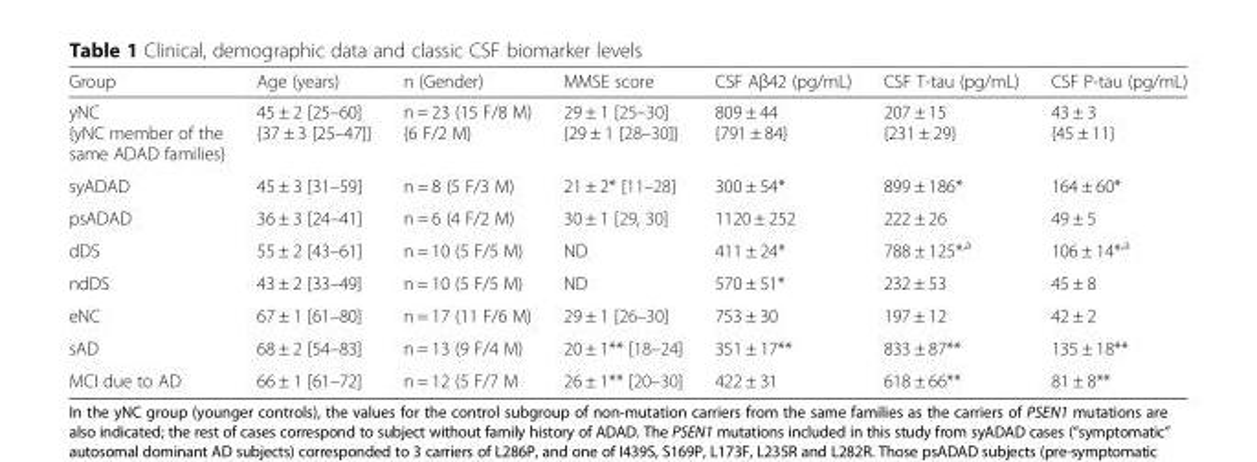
<table><thead><tr><td>Group</td><td>Age (years)</td><td>n (Gender)</td><td>MMSE score</td><td>CSF Aβ42 (pg/mL)</td><td>CSF T-tau (pg/mL)</td><td>CSF P-tau (pg/mL)</td></tr></thead><tbody><tr><td>yNC {yNC member of the same ADAD families}</td><td>45 ± 2 [25–60] {37 ± 3 [25–47]}</td><td>n = 23 (15 F/8 M) {6 F/2 M}</td><td>29 ± 1 [25–30] {29 ± 1 [28–30]}</td><td>809 ± 44 {791 ± 84}</td><td>207 ± 15 {231 ± 29}</td><td>43 ± 3 {45 ± 11}</td></tr><tr><td>syADAD</td><td>45 ± 3 [31–59]</td><td>n = 8 (5 F/3 M)</td><td>21 ± 2* [11–28]</td><td>300 ± 54*</td><td>899 ± 186*</td><td>164 ± 60*</td></tr><tr><td>psADAD</td><td>36 ± 3 [24–41]</td><td>n = 6 (4 F/2 M)</td><td>30 ± 1 [29, 30]</td><td>1120 ± 252</td><td>222 ± 26</td><td>49 ± 5</td></tr><tr><td>dDS</td><td>55 ± 2 [43–61]</td><td>n = 10 (5 F/5 M)</td><td>ND</td><td>411 ± 24*</td><td>788 ± 125*<sup>,a</sup></td><td>106 ± 14*<sup>,a</sup></td></tr><tr><td>ndDS</td><td>43 ± 2 [33–49]</td><td>n = 10 (5 F/5 M)</td><td>ND</td><td>570 ± 51*</td><td>232 ± 53</td><td>45 ± 8</td></tr><tr><td>eNC</td><td>67 ± 1 [61–80]</td><td>n = 17 (11 F/6 M)</td><td>29 ± 1 [26–30]</td><td>753 ± 30</td><td>197 ± 12</td><td>42 ± 2</td></tr><tr><td>sAD</td><td>68 ± 2 [54–83]</td><td>n = 13 (9 F/4 M)</td><td>20 ± 1** [18–24]</td><td>351 ± 17**</td><td>833 ± 87**</td><td>135 ± 18**</td></tr><tr><td>MCI due to AD</td><td>66 ± 1 [61–72]</td><td>n = 12 (5 F/7 M</td><td>26 ± 1** [20–30]</td><td>422 ± 31</td><td>618 ± 66**</td><td>81 ± 8**</td></tr></tbody></table>